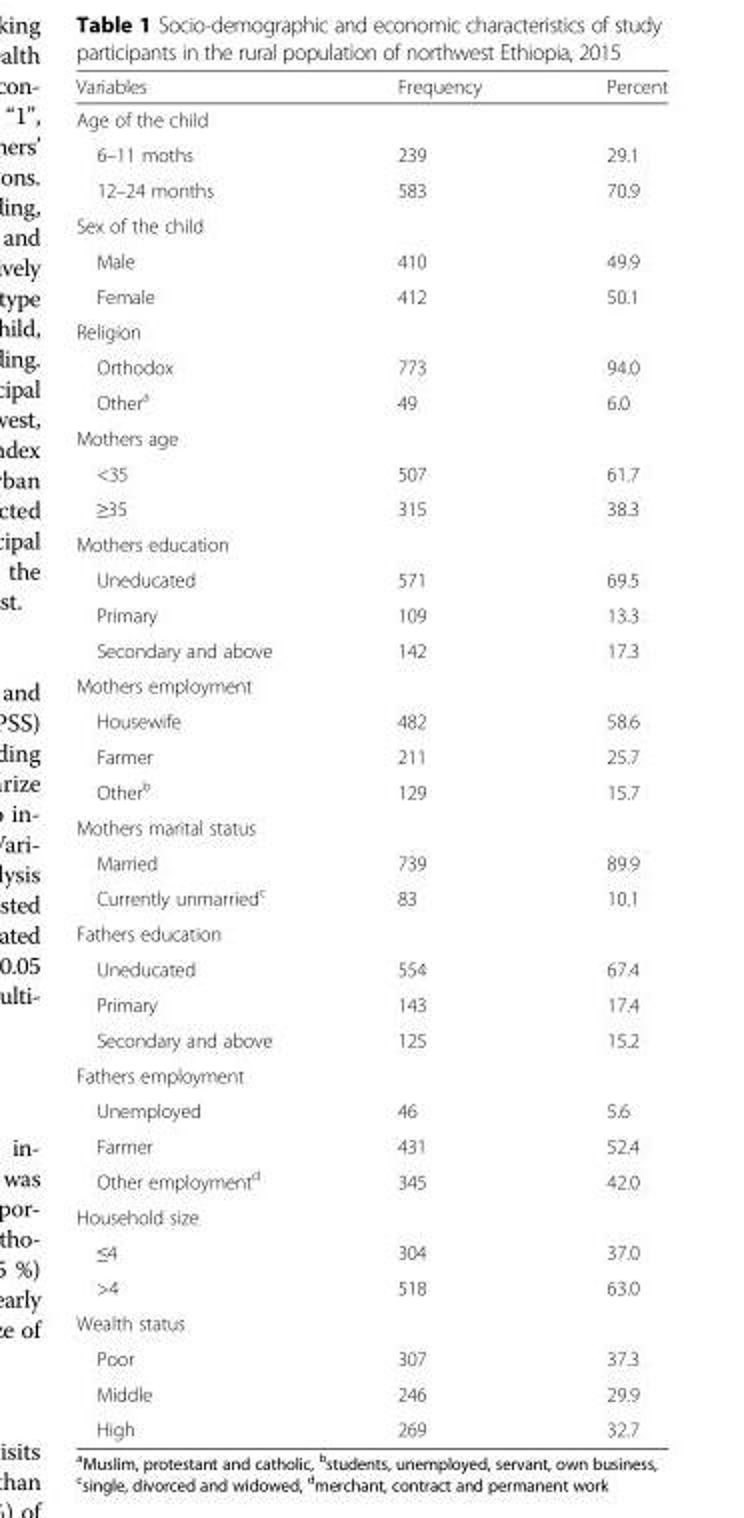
<table><thead><tr><td>Variables</td><td>Frequency</td><td>Percent</td></tr></thead><tbody><tr><td colspan="3">Age of the child</td></tr><tr><td>6–11 moths</td><td>239</td><td>29.1</td></tr><tr><td>12–24 months</td><td>583</td><td>70.9</td></tr><tr><td colspan="3">Sex of the child</td></tr><tr><td>Male</td><td>410</td><td>49.9</td></tr><tr><td>Female</td><td>412</td><td>50.1</td></tr><tr><td colspan="3">Religion</td></tr><tr><td>Orthodox</td><td>773</td><td>94.0</td></tr><tr><td>Other<sup>a</sup></td><td>49</td><td>6.0</td></tr><tr><td colspan="3">Mothers age</td></tr><tr><td>&lt;35</td><td>507</td><td>61.7</td></tr><tr><td>≥35</td><td>315</td><td>38.3</td></tr><tr><td colspan="3">Mothers education</td></tr><tr><td>Uneducated</td><td>571</td><td>69.5</td></tr><tr><td>Primary</td><td>109</td><td>13.3</td></tr><tr><td>Secondary and above</td><td>142</td><td>17.3</td></tr><tr><td colspan="3">Mothers employment</td></tr><tr><td>Housewife</td><td>482</td><td>58.6</td></tr><tr><td>Farmer</td><td>211</td><td>25.7</td></tr><tr><td>Other<sup>b</sup></td><td>129</td><td>15.7</td></tr><tr><td colspan="3">Mothers marital status</td></tr><tr><td>Married</td><td>739</td><td>89.9</td></tr><tr><td>Currently unmarried<sup>c</sup></td><td>83</td><td>10.1</td></tr><tr><td colspan="3">Fathers education</td></tr><tr><td>Uneducated</td><td>554</td><td>67.4</td></tr><tr><td>Primary</td><td>143</td><td>17.4</td></tr><tr><td>Secondary and above</td><td>125</td><td>15.2</td></tr><tr><td colspan="3">Fathers employment</td></tr><tr><td>Unemployed</td><td>46</td><td>5.6</td></tr><tr><td>Farmer</td><td>431</td><td>52.4</td></tr><tr><td>Other employment<sup>d</sup></td><td>345</td><td>42.0</td></tr><tr><td colspan="3">Household size</td></tr><tr><td>≤4</td><td>304</td><td>37.0</td></tr><tr><td>&gt;4</td><td>518</td><td>63.0</td></tr><tr><td colspan="3">Wealth status</td></tr><tr><td>Poor</td><td>307</td><td>37.3</td></tr><tr><td>Middle</td><td>246</td><td>29.9</td></tr><tr><td>High</td><td>269</td><td>32.7</td></tr></tbody></table>